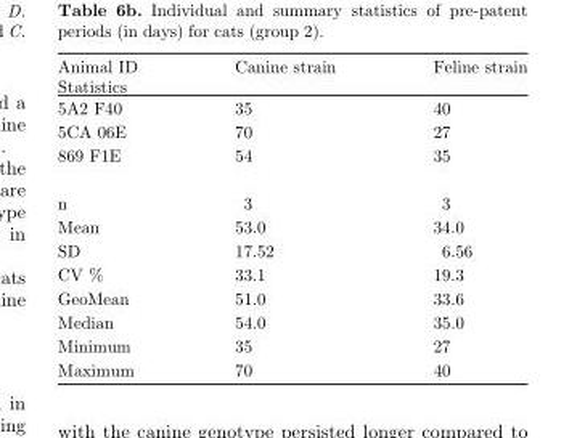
<table><thead><tr><td>Animal ID Statistics</td><td>Canine strain</td><td>Feline strain</td></tr></thead><tbody><tr><td>5A2 F40</td><td>35</td><td>40</td></tr><tr><td>5CA 06E</td><td>70</td><td>27</td></tr><tr><td>869 F1E</td><td>54</td><td>35</td></tr><tr><td>n</td><td>3</td><td>3</td></tr><tr><td>Mean</td><td>53.0</td><td>34.0</td></tr><tr><td>SD</td><td>17.52</td><td>6.56</td></tr><tr><td>CV %</td><td>33.1</td><td>19.3</td></tr><tr><td>GeoMean</td><td>51.0</td><td>33.6</td></tr><tr><td>Median</td><td>54.0</td><td>35.0</td></tr><tr><td>Minimum</td><td>35</td><td>27</td></tr><tr><td>Maximum</td><td>70</td><td>40</td></tr></tbody></table>